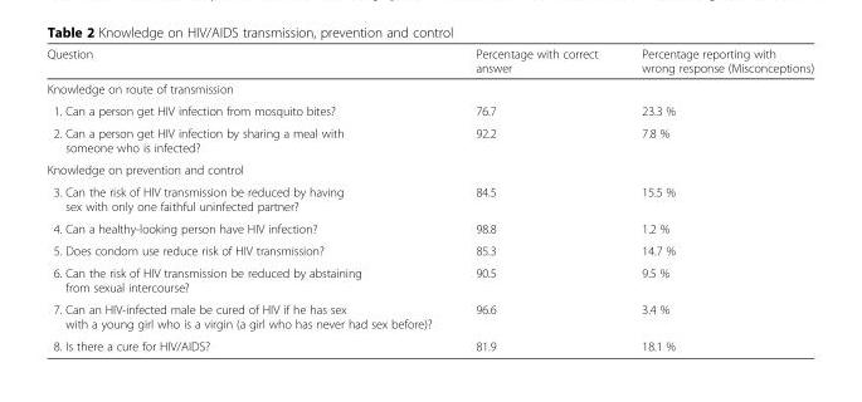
<table><thead><tr><td>Question</td><td>Percentage with correct answer</td><td>Percentage reporting with wrong response (Misconceptions)</td></tr></thead><tbody><tr><td colspan="3">Knowledge on route of transmission</td></tr><tr><td>1. Can a person get HIV infection from mosquito bites?</td><td>76.7</td><td>23.3 %</td></tr><tr><td>2. Can a person get HIV infection by sharing a meal with someone who is infected?</td><td>92.2</td><td>7.8 %</td></tr><tr><td colspan="3">Knowledge on prevention and control</td></tr><tr><td>3. Can the risk of HIV transmission be reduced by having sex with only one faithful uninfected partner?</td><td>84.5</td><td>15.5 %</td></tr><tr><td>4. Can a healthy-looking person have HIV infection?</td><td>98.8</td><td>1.2 %</td></tr><tr><td>5. Does condom use reduce risk of HIV transmission?</td><td>85.3</td><td>14.7 %</td></tr><tr><td>6. Can the risk of HIV transmission be reduced by abstaining from sexual intercourse?</td><td>90.5</td><td>9.5 %</td></tr><tr><td>7. Can an HIV-infected male be cured of HIV if he has sex with a young girl who is a virgin (a girl who has never had sex before)?</td><td>96.6</td><td>3.4 %</td></tr><tr><td>8. Is there a cure for HIV/AIDS?</td><td>81.9</td><td>18.1 %</td></tr></tbody></table>